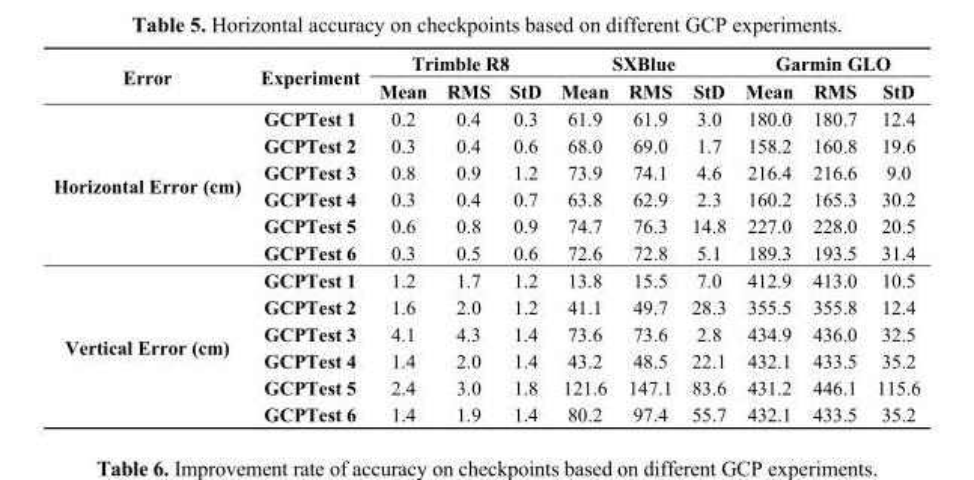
<table><thead><tr><td rowspan="2">Error</td><td rowspan="2">Experiment</td><td colspan="3">Trimble R8</td><td colspan="3">SXBlue</td><td colspan="3">Garmin GLO</td></tr><tr><td>Mean</td><td>RMS</td><td>StD</td><td>Mean</td><td>RMS</td><td>StD</td><td>Mean</td><td>RMS</td><td>StD</td></tr></thead><tbody><tr><td rowspan="6">Horizontal Error (cm)</td><td>GCPTest 1</td><td>0.2</td><td>0.4</td><td>0.3</td><td>61.9</td><td>61.9</td><td>3.0</td><td>180.0</td><td>180.7</td><td>12.4</td></tr><tr><td>GCPTest 2</td><td>0.3</td><td>0.4</td><td>0.6</td><td>68.0</td><td>69.0</td><td>1.7</td><td>158.2</td><td>160.8</td><td>19.6</td></tr><tr><td>GCPTest 3</td><td>0.8</td><td>0.9</td><td>1.2</td><td>73.9</td><td>74.1</td><td>4.6</td><td>216.4</td><td>216.6</td><td>9.0</td></tr><tr><td>GCPTest 4</td><td>0.3</td><td>0.4</td><td>0.7</td><td>63.8</td><td>62.9</td><td>2.3</td><td>160.2</td><td>165.3</td><td>30.2</td></tr><tr><td>GCPTest 5</td><td>0.6</td><td>0.8</td><td>0.9</td><td>74.7</td><td>76.3</td><td>14.8</td><td>227.0</td><td>228.0</td><td>20.5</td></tr><tr><td>GCPTest 6</td><td>0.3</td><td>0.5</td><td>0.6</td><td>72.6</td><td>72.8</td><td>5.1</td><td>189.3</td><td>193.5</td><td>31.4</td></tr><tr><td rowspan="6">Vertical Error (cm)</td><td>GCPTest 1</td><td>1.2</td><td>1.7</td><td>1.2</td><td>13.8</td><td>15.5</td><td>7.0</td><td>412.9</td><td>413.0</td><td>10.5</td></tr><tr><td>GCPTest 2</td><td>1.6</td><td>2.0</td><td>1.2</td><td>41.1</td><td>49.7</td><td>28.3</td><td>355.5</td><td>355.8</td><td>12.4</td></tr><tr><td>GCPTest 3</td><td>4.1</td><td>4.3</td><td>1.4</td><td>73.6</td><td>73.6</td><td>2.8</td><td>434.9</td><td>436.0</td><td>32.5</td></tr><tr><td>GCPTest 4</td><td>1.4</td><td>2.0</td><td>1.4</td><td>43.2</td><td>48.5</td><td>22.1</td><td>432.1</td><td>433.5</td><td>35.2</td></tr><tr><td>GCPTest 5</td><td>2.4</td><td>3.0</td><td>1.8</td><td>121.6</td><td>147.1</td><td>83.6</td><td>431.2</td><td>446.1</td><td>115.6</td></tr><tr><td>GCPTest 6</td><td>1.4</td><td>1.9</td><td>1.4</td><td>80.2</td><td>97.4</td><td>55.7</td><td>432.1</td><td>433.5</td><td>35.2</td></tr></tbody></table>